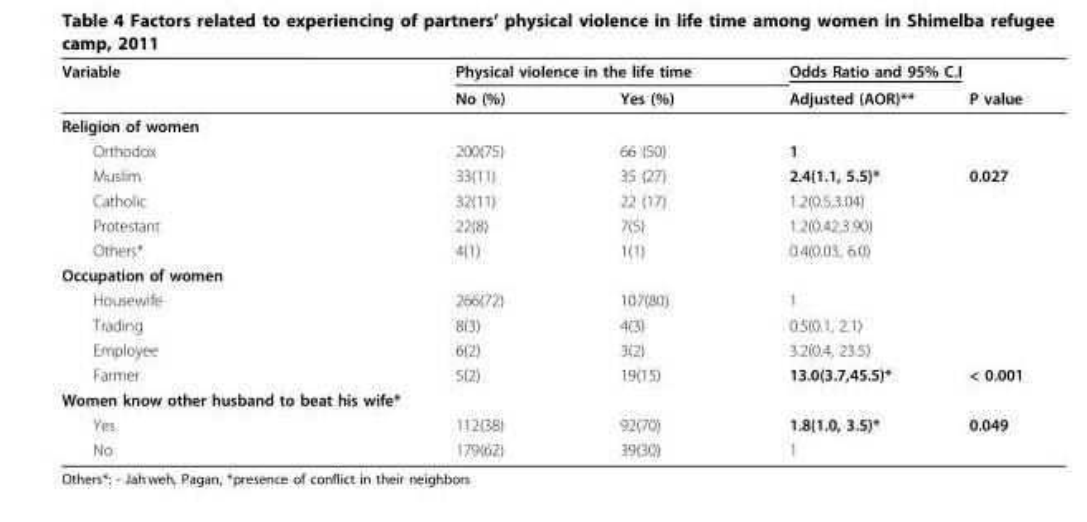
<table><thead><tr><td rowspan="2">Variable</td><td colspan="2">Physical violence in the life time</td><td colspan="2">Odds Ratio and 95% C.I</td></tr><tr><td>No (%)</td><td>Yes (%)</td><td>Adjusted (AOR)**</td><td>P value</td></tr></thead><tbody><tr><td colspan="5">Religion of women</td></tr><tr><td>Orthodox</td><td>200(75)</td><td>66 (50)</td><td>1</td><td></td></tr><tr><td>Muslim</td><td>33(11)</td><td>35 (27)</td><td>2.4(1.1, 5.5)*</td><td>0.027</td></tr><tr><td>Catholic</td><td>32(11)</td><td>22 (17)</td><td>1.2(0.5,3.04)</td><td></td></tr><tr><td>Protestant</td><td>22(8)</td><td>7(5)</td><td>1.2(0.42,3.90)</td><td></td></tr><tr><td>Others*</td><td>4(1)</td><td>1(1)</td><td>0.4(0.03, 6.0)</td><td></td></tr><tr><td colspan="5">Occupation of women</td></tr><tr><td>Housewife</td><td>266(72)</td><td>107(80)</td><td>1</td><td></td></tr><tr><td>Trading</td><td>8(3)</td><td>4(3)</td><td>0.5(0.1, 2.1)</td><td></td></tr><tr><td>Employee</td><td>6(2)</td><td>3(2)</td><td>3.2(0.4, 23.5)</td><td></td></tr><tr><td>Farmer</td><td>5(2)</td><td>19(15)</td><td>13.0(3.7,45.5)*</td><td>&lt; 0.001</td></tr><tr><td colspan="5">Women know other husband to beat his wife*</td></tr><tr><td>Yes</td><td>112(38)</td><td>92(70)</td><td>1.8(1.0, 3.5)*</td><td>0.049</td></tr><tr><td>No</td><td>179(62)</td><td>39(30)</td><td>1</td><td></td></tr></tbody></table>